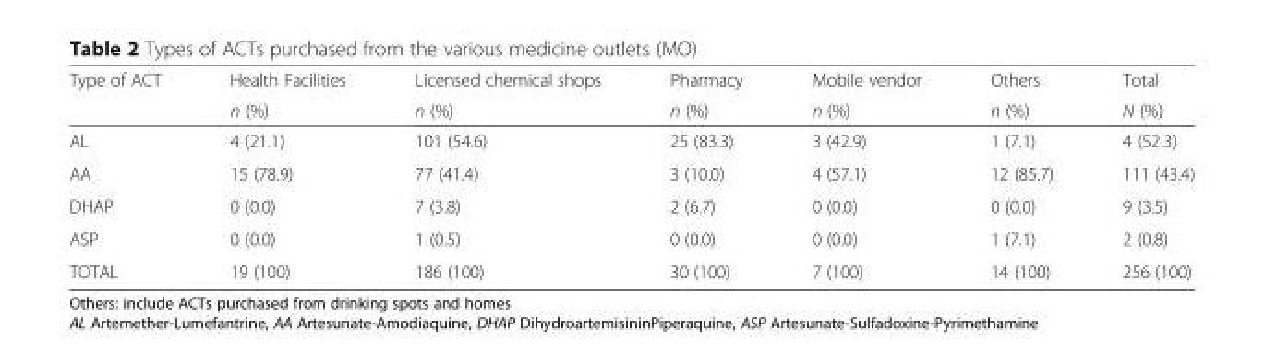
<table><thead><tr><td rowspan="2">Type of ACT</td><td rowspan="2">Health Facilities n (%)</td><td rowspan="2">Licensed chemical shops n (%)</td><td rowspan="2">Pharmacy n (%)</td><td rowspan="2">Mobile vendor n (%)</td><td rowspan="2">Others n (%)</td><td rowspan="2">Total N (%)</td></tr><tr></tr></thead><tbody><tr><td>AL</td><td>4 (21.1)</td><td>101 (54.6)</td><td>25 (83.3)</td><td>3 (42.9)</td><td>1 (7.1)</td><td>4 (52.3)</td></tr><tr><td>AA</td><td>15 (78.9)</td><td>77 (41.4)</td><td>3 (10.0)</td><td>4 (57.1)</td><td>12 (85.7)</td><td>111 (43.4)</td></tr><tr><td>DHAP</td><td>0 (0.0)</td><td>7 (3.8)</td><td>2 (6.7)</td><td>0 (0.0)</td><td>0 (0.0)</td><td>9 (3.5)</td></tr><tr><td>ASP</td><td>0 (0.0)</td><td>1 (0.5)</td><td>0 (0.0)</td><td>0 (0.0)</td><td>1 (7.1)</td><td>2 (0.8)</td></tr><tr><td>TOTAL</td><td>19 (100)</td><td>186 (100)</td><td>30 (100)</td><td>7 (100)</td><td>14 (100)</td><td>256 (100)</td></tr></tbody></table>